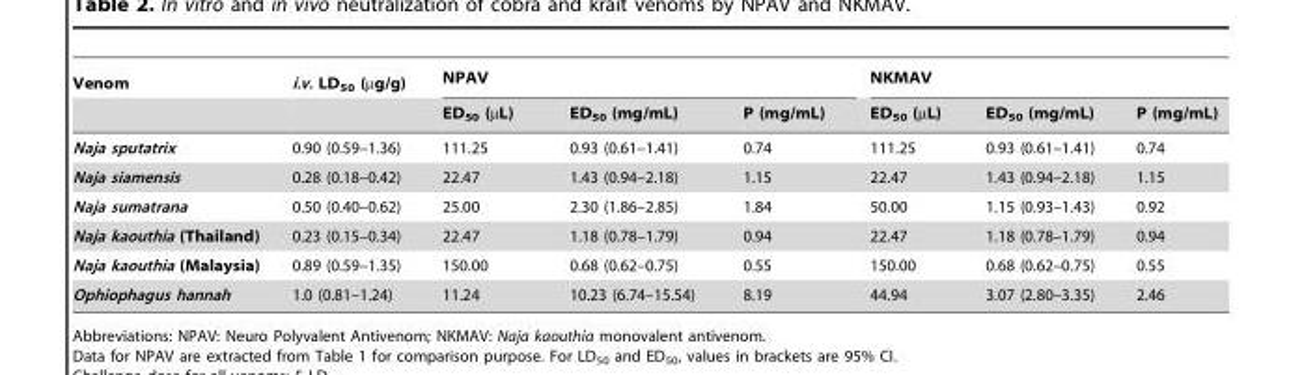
<table><thead><tr><td rowspan="2">Venom</td><td rowspan="2">i.v. LD<sub>50</sub> (µg/g)</td><td colspan="3">NPAV</td><td colspan="3">NKMAV</td></tr><tr><td>ED<sub>50</sub> (µL)</td><td>ED<sub>50</sub> (mg/mL)</td><td>P (mg/mL)</td><td>ED<sub>50</sub> (µL)</td><td>ED<sub>50</sub> (mg/mL)</td><td>P (mg/mL)</td></tr></thead><tbody><tr><td>Naja sputatrix</td><td>0.90 (0.59–1.36)</td><td>111.25</td><td>0.93 (0.61–1.41)</td><td>0.74</td><td>111.25</td><td>0.93 (0.61–1.41)</td><td>0.74</td></tr><tr><td>Naja siamensis</td><td>0.28 (0.18–0.42)</td><td>22.47</td><td>1.43 (0.94–2.18)</td><td>1.15</td><td>22.47</td><td>1.43 (0.94–2.18)</td><td>1.15</td></tr><tr><td>Naja sumatrana</td><td>0.50 (0.40–0.62)</td><td>25.00</td><td>2.30 (1.86–2.85)</td><td>1.84</td><td>50.00</td><td>1.15 (0.93–1.43)</td><td>0.92</td></tr><tr><td>Naja kaouthia (Thailand)</td><td>0.23 (0.15–0.34)</td><td>22.47</td><td>1.18 (0.78–1.79)</td><td>0.94</td><td>22.47</td><td>1.18 (0.78–1.79)</td><td>0.94</td></tr><tr><td>Naja kaouthia (Malaysia)</td><td>0.89 (0.59–1.35)</td><td>150.00</td><td>0.68 (0.62–0.75)</td><td>0.55</td><td>150.00</td><td>0.68 (0.62–0.75)</td><td>0.55</td></tr><tr><td>Ophiophagus hannah</td><td>1.0 (0.81–1.24)</td><td>11.24</td><td>10.23 (6.74–15.54)</td><td>8.19</td><td>44.94</td><td>3.07 (2.80–3.35)</td><td>2.46</td></tr></tbody></table>